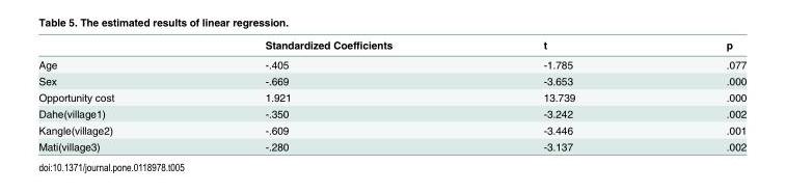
<table><thead><tr><td></td><td>Standardized Coefficients</td><td>t</td><td>p</td></tr></thead><tbody><tr><td>Age</td><td>-.405</td><td>-1.785</td><td>.077</td></tr><tr><td>Sex</td><td>-.669</td><td>-3.653</td><td>.000</td></tr><tr><td>Opportunity cost</td><td>1.921</td><td>13.739</td><td>.000</td></tr><tr><td>Dahe(village1)</td><td>-.350</td><td>-3.242</td><td>.002</td></tr><tr><td>Kangle(village2)</td><td>-.609</td><td>-3.446</td><td>.001</td></tr><tr><td>Mati(village3)</td><td>-.280</td><td>-3.137</td><td>.002</td></tr></tbody></table>